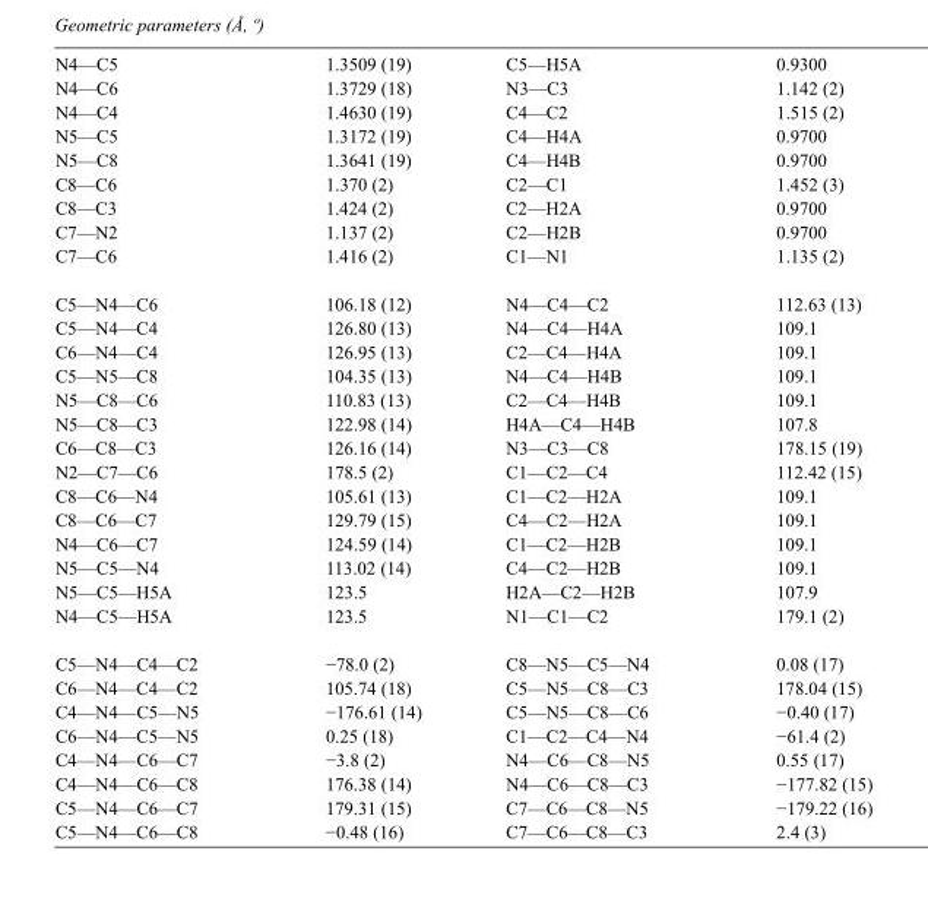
<table><tbody><tr><td>N4—C5</td><td>1.3509 (19)</td><td>C5—H5A</td><td>0.9300</td></tr><tr><td>N4—C6</td><td>1.3729 (18)</td><td>N3—C3</td><td>1.142 (2)</td></tr><tr><td>N4—C4</td><td>1.4630 (19)</td><td>C4—C2</td><td>1.515 (2)</td></tr><tr><td>N5—C5</td><td>1.3172 (19)</td><td>C4—H4A</td><td>0.9700</td></tr><tr><td>N5—C8</td><td>1.3641 (19)</td><td>C4—H4B</td><td>0.9700</td></tr><tr><td>C8—C6</td><td>1.370 (2)</td><td>C2—C1</td><td>1.452 (3)</td></tr><tr><td>C8—C3</td><td>1.424 (2)</td><td>C2—H2A</td><td>0.9700</td></tr><tr><td>C7—N2</td><td>1.137 (2)</td><td>C2—H2B</td><td>0.9700</td></tr><tr><td>C7—C6</td><td>1.416 (2)</td><td>C1—N1</td><td>1.135 (2)</td></tr><tr><td>C5—N4—C6</td><td>106.18 (12)</td><td>N4—C4—C2</td><td>112.63 (13)</td></tr><tr><td>C5—N4—C4</td><td>126.80 (13)</td><td>N4—C4—H4A</td><td>109.1</td></tr><tr><td>C6—N4—C4</td><td>126.95 (13)</td><td>C2—C4—H4A</td><td>109.1</td></tr><tr><td>C5—N5—C8</td><td>104.35 (13)</td><td>N4—C4—H4B</td><td>109.1</td></tr><tr><td>N5—C8—C6</td><td>110.83 (13)</td><td>C2—C4—H4B</td><td>109.1</td></tr><tr><td>N5—C8—C3</td><td>122.98 (14)</td><td>H4A—C4—H4B</td><td>107.8</td></tr><tr><td>C6—C8—C3</td><td>126.16 (14)</td><td>N3—C3—C8</td><td>178.15 (19)</td></tr><tr><td>N2—C7—C6</td><td>178.5 (2)</td><td>C1—C2—C4</td><td>112.42 (15)</td></tr><tr><td>C8—C6—N4</td><td>105.61 (13)</td><td>C1—C2—H2A</td><td>109.1</td></tr><tr><td>C8—C6—C7</td><td>129.79 (15)</td><td>C4—C2—H2A</td><td>109.1</td></tr><tr><td>N4—C6—C7</td><td>124.59 (14)</td><td>C1—C2—H2B</td><td>109.1</td></tr><tr><td>N5—C5—N4</td><td>113.02 (14)</td><td>C4—C2—H2B</td><td>109.1</td></tr><tr><td>N5—C5—H5A</td><td>123.5</td><td>H2A—C2—H2B</td><td>107.9</td></tr><tr><td>N4—C5—H5A</td><td>123.5</td><td>N1—C1—C2</td><td>179.1 (2)</td></tr><tr><td>C5—N4—C4—C2</td><td>−78.0 (2)</td><td>C8—N5—C5—N4</td><td>0.08 (17)</td></tr><tr><td>C6—N4—C4—C2</td><td>105.74 (18)</td><td>C5—N5—C8—C3</td><td>178.04 (15)</td></tr><tr><td>C4—N4—C5—N5</td><td>−176.61 (14)</td><td>C5—N5—C8—C6</td><td>−0.40 (17)</td></tr><tr><td>C6—N4—C5—N5</td><td>0.25 (18)</td><td>C1—C2—C4—N4</td><td>−61.4 (2)</td></tr><tr><td>C4—N4—C6—C7</td><td>−3.8 (2)</td><td>N4—C6—C8—N5</td><td>0.55 (17)</td></tr><tr><td>C4—N4—C6—C8</td><td>176.38 (14)</td><td>N4—C6—C8—C3</td><td>−177.82 (15)</td></tr><tr><td>C5—N4—C6—C7</td><td>179.31 (15)</td><td>C7—C6—C8—N5</td><td>−179.22 (16)</td></tr><tr><td>C5—N4—C6—C8</td><td>−0.48 (16)</td><td>C7—C6—C8—C3</td><td>2.4 (3)</td></tr></tbody></table>